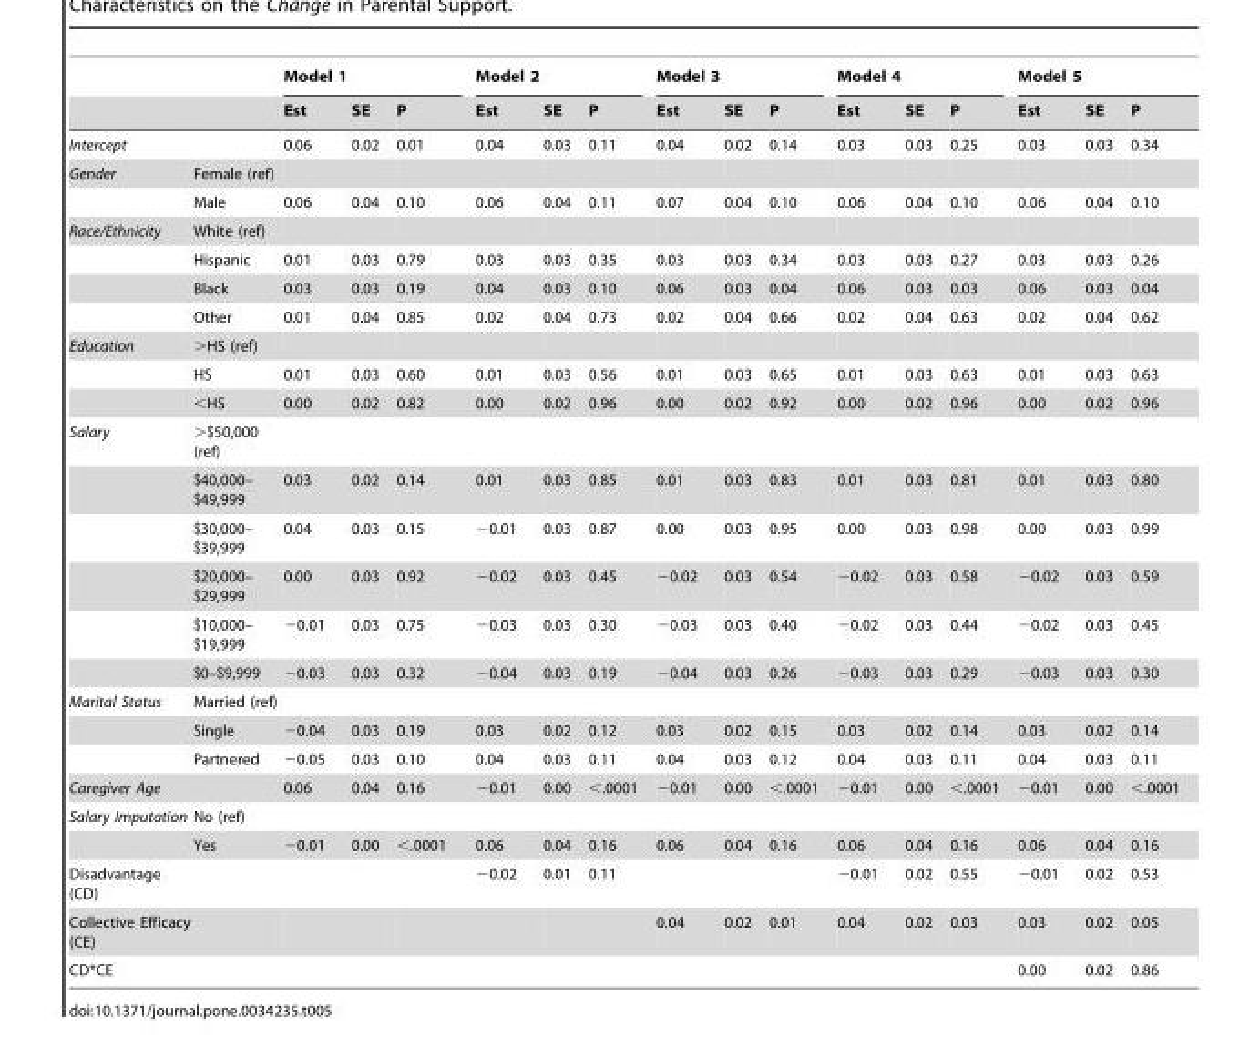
<table><thead><tr><td rowspan="2"></td><td rowspan="2"></td><td colspan="3">Model 1</td><td colspan="3">Model 2</td><td colspan="3">Model 3</td><td colspan="3">Model 4</td><td colspan="3">Model 5</td></tr><tr><td>Est</td><td>SE</td><td>P</td><td>Est</td><td>SE</td><td>P</td><td>Est</td><td>SE</td><td>P</td><td>Est</td><td>SE</td><td>P</td><td>Est</td><td>SE</td><td>P</td></tr></thead><tbody><tr><td>Intercept</td><td></td><td>0.06</td><td>0.02</td><td>0.01</td><td>0.04</td><td>0.03</td><td>0.11</td><td>0.04</td><td>0.02</td><td>0.14</td><td>0.03</td><td>0.03</td><td>0.25</td><td>0.03</td><td>0.03</td><td>0.34</td></tr><tr><td rowspan="2">Gender</td><td>Female (ref)</td><td></td><td></td><td></td><td></td><td></td><td></td><td></td><td></td><td></td><td></td><td></td><td></td><td></td><td></td><td></td></tr><tr><td>Male</td><td>0.06</td><td>0.04</td><td>0.10</td><td>0.06</td><td>0.04</td><td>0.11</td><td>0.07</td><td>0.04</td><td>0.10</td><td>0.06</td><td>0.04</td><td>0.10</td><td>0.06</td><td>0.04</td><td>0.10</td></tr><tr><td rowspan="4">Race/Ethnicity</td><td>White (ref)</td><td></td><td></td><td></td><td></td><td></td><td></td><td></td><td></td><td></td><td></td><td></td><td></td><td></td><td></td><td></td></tr><tr><td>Hispanic</td><td>0.01</td><td>0.03</td><td>0.79</td><td>0.03</td><td>0.03</td><td>0.35</td><td>0.03</td><td>0.03</td><td>0.34</td><td>0.03</td><td>0.03</td><td>0.27</td><td>0.03</td><td>0.03</td><td>0.26</td></tr><tr><td>Black</td><td>0.03</td><td>0.03</td><td>0.19</td><td>0.04</td><td>0.03</td><td>0.10</td><td>0.06</td><td>0.03</td><td>0.04</td><td>0.06</td><td>0.03</td><td>0.03</td><td>0.06</td><td>0.03</td><td>0.04</td></tr><tr><td>Other</td><td>0.01</td><td>0.04</td><td>0.85</td><td>0.02</td><td>0.04</td><td>0.73</td><td>0.02</td><td>0.04</td><td>0.66</td><td>0.02</td><td>0.04</td><td>0.63</td><td>0.02</td><td>0.04</td><td>0.62</td></tr><tr><td rowspan="3">Education</td><td>&gt;HS (ref)</td><td></td><td></td><td></td><td></td><td></td><td></td><td></td><td></td><td></td><td></td><td></td><td></td><td></td><td></td><td></td></tr><tr><td>HS</td><td>0.01</td><td>0.03</td><td>0.60</td><td>0.01</td><td>0.03</td><td>0.56</td><td>0.01</td><td>0.03</td><td>0.65</td><td>0.01</td><td>0.03</td><td>0.63</td><td>0.01</td><td>0.03</td><td>0.63</td></tr><tr><td>&lt;HS</td><td>0.00</td><td>0.02</td><td>0.82</td><td>0.00</td><td>0.02</td><td>0.96</td><td>0.00</td><td>0.02</td><td>0.92</td><td>0.00</td><td>0.02</td><td>0.96</td><td>0.00</td><td>0.02</td><td>0.96</td></tr><tr><td rowspan="6">Salary</td><td>&gt;$50,000 (ref)</td><td></td><td></td><td></td><td></td><td></td><td></td><td></td><td></td><td></td><td></td><td></td><td></td><td></td><td></td><td></td></tr><tr><td>$40,000– $49,999</td><td>0.03</td><td>0.02</td><td>0.14</td><td>0.01</td><td>0.03</td><td>0.85</td><td>0.01</td><td>0.03</td><td>0.83</td><td>0.01</td><td>0.03</td><td>0.81</td><td>0.01</td><td>0.03</td><td>0.80</td></tr><tr><td>$30,000– $39,999</td><td>0.04</td><td>0.03</td><td>0.15</td><td>−0.01</td><td>0.03</td><td>0.87</td><td>0.00</td><td>0.03</td><td>0.95</td><td>0.00</td><td>0.03</td><td>0.98</td><td>0.00</td><td>0.03</td><td>0.99</td></tr><tr><td>$20,000– $29,999</td><td>0.00</td><td>0.03</td><td>0.92</td><td>−0.02</td><td>0.03</td><td>0.45</td><td>−0.02</td><td>0.03</td><td>0.54</td><td>−0.02</td><td>0.03</td><td>0.58</td><td>−0.02</td><td>0.03</td><td>0.59</td></tr><tr><td>$10,000– $19,999</td><td>−0.01</td><td>0.03</td><td>0.75</td><td>−0.03</td><td>0.03</td><td>0.30</td><td>−0.03</td><td>0.03</td><td>0.40</td><td>−0.02</td><td>0.03</td><td>0.44</td><td>−0.02</td><td>0.03</td><td>0.45</td></tr><tr><td>$0–$9,999</td><td>−0.03</td><td>0.03</td><td>0.32</td><td>−0.04</td><td>0.03</td><td>0.19</td><td>−0.04</td><td>0.03</td><td>0.26</td><td>−0.03</td><td>0.03</td><td>0.29</td><td>−0.03</td><td>0.03</td><td>0.30</td></tr><tr><td rowspan="3">Marital Status</td><td>Married (ref)</td><td></td><td></td><td></td><td></td><td></td><td></td><td></td><td></td><td></td><td></td><td></td><td></td><td></td><td></td><td></td></tr><tr><td>Single</td><td>−0.04</td><td>0.03</td><td>0.19</td><td>0.03</td><td>0.02</td><td>0.12</td><td>0.03</td><td>0.02</td><td>0.15</td><td>0.03</td><td>0.02</td><td>0.14</td><td>0.03</td><td>0.02</td><td>0.14</td></tr><tr><td>Partnered</td><td>−0.05</td><td>0.03</td><td>0.10</td><td>0.04</td><td>0.03</td><td>0.11</td><td>0.04</td><td>0.03</td><td>0.12</td><td>0.04</td><td>0.03</td><td>0.11</td><td>0.04</td><td>0.03</td><td>0.11</td></tr><tr><td>Caregiver Age</td><td></td><td>0.06</td><td>0.04</td><td>0.16</td><td>−0.01</td><td>0.00</td><td>&lt;.0001</td><td>−0.01</td><td>0.00</td><td>&lt;.0001</td><td>−0.01</td><td>0.00</td><td>&lt;.0001</td><td>−0.01</td><td>0.00</td><td>&lt;.0001</td></tr><tr><td rowspan="2">Salary Imputation</td><td>No (ref)</td><td></td><td></td><td></td><td></td><td></td><td></td><td></td><td></td><td></td><td></td><td></td><td></td><td></td><td></td><td></td></tr><tr><td>Yes</td><td>−0.01</td><td>0.00</td><td>&lt;.0001</td><td>0.06</td><td>0.04</td><td>0.16</td><td>0.06</td><td>0.04</td><td>0.16</td><td>0.06</td><td>0.04</td><td>0.16</td><td>0.06</td><td>0.04</td><td>0.16</td></tr><tr><td>Disadvantage (CD)</td><td></td><td></td><td></td><td></td><td>−0.02</td><td>0.01</td><td>0.11</td><td></td><td></td><td></td><td>−0.01</td><td>0.02</td><td>0.55</td><td>−0.01</td><td>0.02</td><td>0.53</td></tr><tr><td>Collective Efficacy (CE)</td><td></td><td></td><td></td><td></td><td></td><td></td><td></td><td>0.04</td><td>0.02</td><td>0.01</td><td>0.04</td><td>0.02</td><td>0.03</td><td>0.03</td><td>0.02</td><td>0.05</td></tr><tr><td>CD*CE</td><td></td><td></td><td></td><td></td><td></td><td></td><td></td><td></td><td></td><td></td><td></td><td></td><td></td><td>0.00</td><td>0.02</td><td>0.86</td></tr></tbody></table>